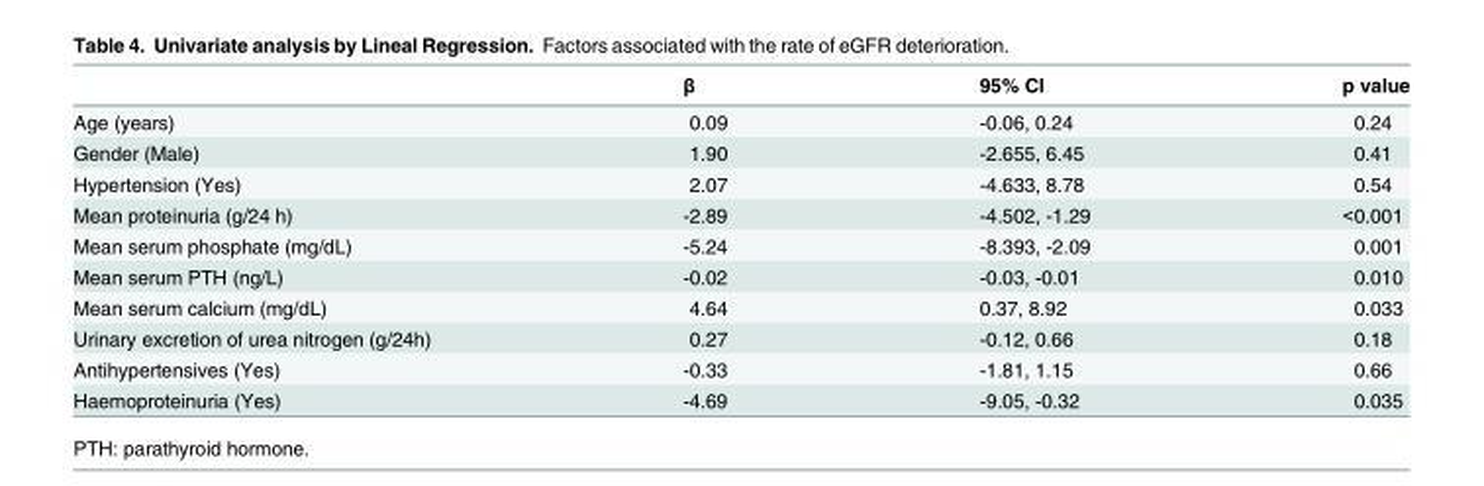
<table><thead><tr><td></td><td>β</td><td>95% CI</td><td>p value</td></tr></thead><tbody><tr><td>Age (years)</td><td>0.09</td><td>-0.06, 0.24</td><td>0.24</td></tr><tr><td>Gender (Male)</td><td>1.90</td><td>-2.655, 6.45</td><td>0.41</td></tr><tr><td>Hypertension (Yes)</td><td>2.07</td><td>-4.633, 8.78</td><td>0.54</td></tr><tr><td>Mean proteinuria (g/24 h)</td><td>-2.89</td><td>-4.502, -1.29</td><td>&lt;0.001</td></tr><tr><td>Mean serum phosphate (mg/dL)</td><td>-5.24</td><td>-8.393, -2.09</td><td>0.001</td></tr><tr><td>Mean serum PTH (ng/L)</td><td>-0.02</td><td>-0.03, -0.01</td><td>0.010</td></tr><tr><td>Mean serum calcium (mg/dL)</td><td>4.64</td><td>0.37, 8.92</td><td>0.033</td></tr><tr><td>Urinary excretion of urea nitrogen (g/24h)</td><td>0.27</td><td>-0.12, 0.66</td><td>0.18</td></tr><tr><td>Antihypertensives (Yes)</td><td>-0.33</td><td>-1.81, 1.15</td><td>0.66</td></tr><tr><td>Haemoproteinuria (Yes)</td><td>-4.69</td><td>-9.05, -0.32</td><td>0.035</td></tr></tbody></table>